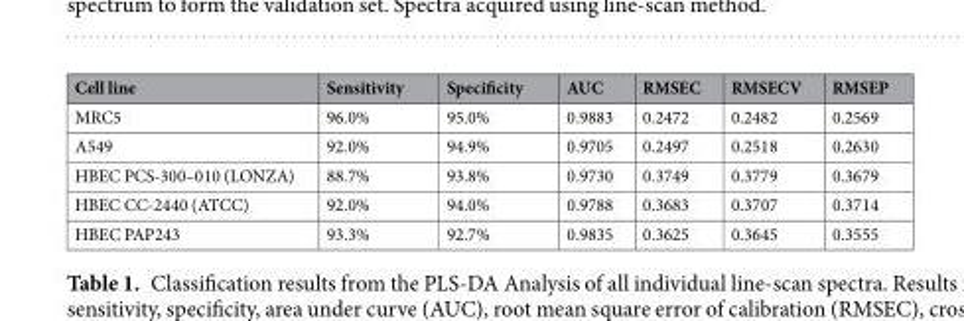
<table><thead><tr><td>Cell line</td><td>Sensitivity</td><td>Specificity</td><td>AUC</td><td>RMSEC</td><td>RMSECV</td><td>RMSEP</td></tr></thead><tbody><tr><td>MRC5</td><td>96.0%</td><td>95.0%</td><td>0.9883</td><td>0.2472</td><td>0.2482</td><td>0.2569</td></tr><tr><td>A549</td><td>92.0%</td><td>94.9%</td><td>0.9705</td><td>0.2497</td><td>0.2518</td><td>0.2630</td></tr><tr><td>HBEC PCS-300–010 (LONZA)</td><td>88.7%</td><td>93.8%</td><td>0.9730</td><td>0.3749</td><td>0.3779</td><td>0.3679</td></tr><tr><td>HBEC CC-2440 (ATCC)</td><td>92.0%</td><td>94.0%</td><td>0.9788</td><td>0.3683</td><td>0.3707</td><td>0.3714</td></tr><tr><td>HBEC PAP243</td><td>93.3%</td><td>92.7%</td><td>0.9835</td><td>0.3625</td><td>0.3645</td><td>0.3555</td></tr></tbody></table>